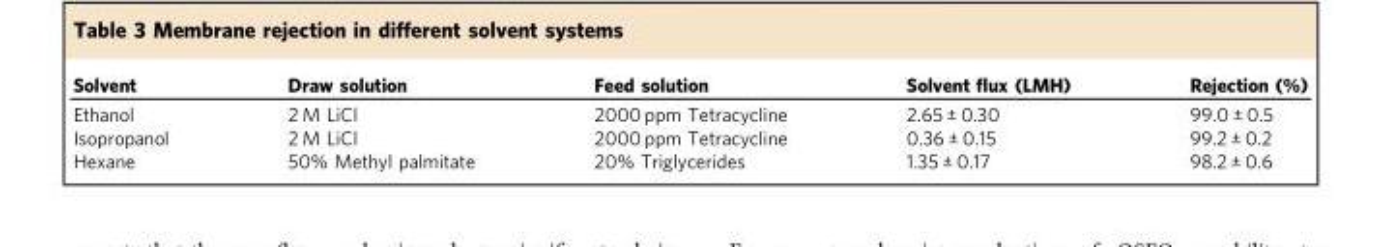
<table><thead><tr><td>Solvent</td><td>Draw solution</td><td>Feed solution</td><td>Solvent flux (LMH)</td><td>Rejection (%)</td></tr></thead><tbody><tr><td>Ethanol</td><td>2 M LiCl</td><td>2000 ppm Tetracycline</td><td>2.65 ± 0.30</td><td>99.0 ± 0.5</td></tr><tr><td>Isopropanol</td><td>2 M LiCl</td><td>2000 ppm Tetracycline</td><td>0.36 ± 0.15</td><td>99.2 ± 0.2</td></tr><tr><td>Hexane</td><td>50% Methyl palmitate</td><td>20% Triglycerides</td><td>1.35 ± 0.17</td><td>98.2 ± 0.6</td></tr></tbody></table>